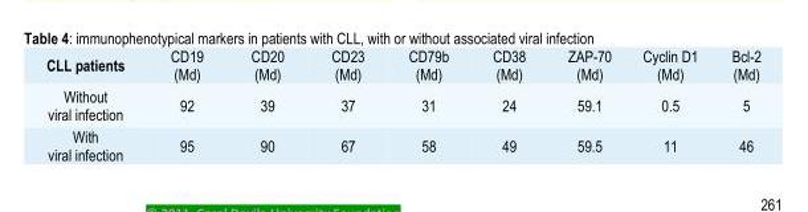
<table><thead><tr><td rowspan="3">CLL patients Without viral infection With viral infection</td><td rowspan="3">CD19 (Md) 92 95</td><td rowspan="3">CD20 (Md) 39 90</td><td rowspan="3">CD23 (Md) 37 67</td><td rowspan="3">CD79b (Md) 31 58</td><td rowspan="3">CD38 (Md) 24 49</td><td rowspan="3">ZAP-70 (Md) 59.1 59.5</td><td rowspan="3">Cyclin D1 (Md) 0.5 11</td><td rowspan="3">Bcl-2 (Md) 5 46</td></tr><tr></tr><tr></tr></thead><tbody></tbody></table>